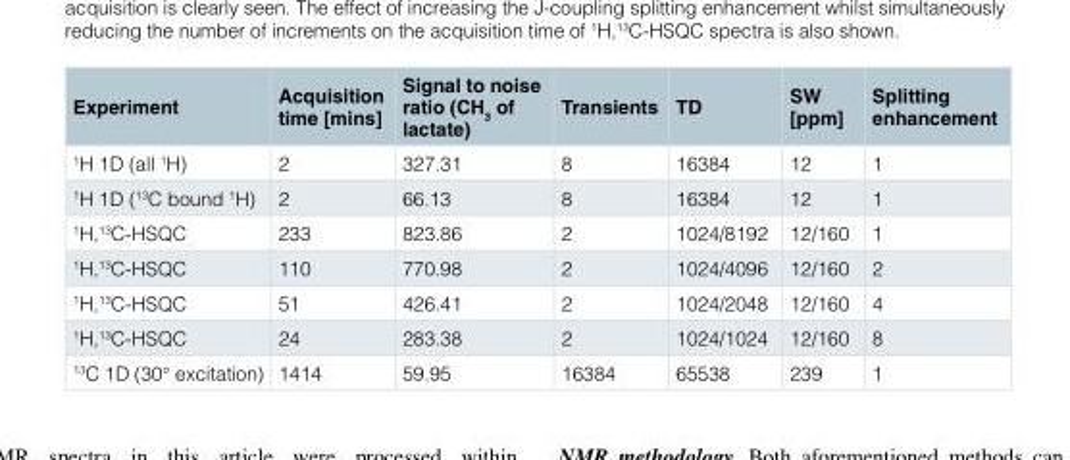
<table><thead><tr><td>Experiment</td><td>Acquisition time [mins]</td><td>Signal to noise ratio (CH<sub>3</sub> of lactate)</td><td>Transients</td><td>TD</td><td>SW [ppm]</td><td>Splitting enhancement</td></tr></thead><tbody><tr><td><sup>1</sup>H 1D (all <sup>1</sup>H)</td><td>2</td><td>327.31</td><td>8</td><td>16384</td><td>12</td><td>1</td></tr><tr><td><sup>1</sup>H 1D (<sup>13</sup>C bound <sup>1</sup>H)</td><td>2</td><td>66.13</td><td>8</td><td>16384</td><td>12</td><td>1</td></tr><tr><td><sup>1</sup>H,<sup>13</sup>C-HSQC</td><td>233</td><td>823.86</td><td>2</td><td>1024/8192</td><td>12/160</td><td>1</td></tr><tr><td><sup>1</sup>H,<sup>13</sup>C-HSQC</td><td>110</td><td>770.98</td><td>2</td><td>1024/4096</td><td>12/160</td><td>2</td></tr><tr><td><sup>1</sup>H,<sup>13</sup>C-HSQC</td><td>51</td><td>426.41</td><td>2</td><td>1024/2048</td><td>12/160</td><td>4</td></tr><tr><td><sup>1</sup>H,<sup>13</sup>C-HSQC</td><td>24</td><td>283.38</td><td>2</td><td>1024/1024</td><td>12/160</td><td>8</td></tr><tr><td><sup>13</sup>C 1D (30° excitation)</td><td>1414</td><td>59.95</td><td>16384</td><td>65538</td><td>239</td><td>1</td></tr></tbody></table>